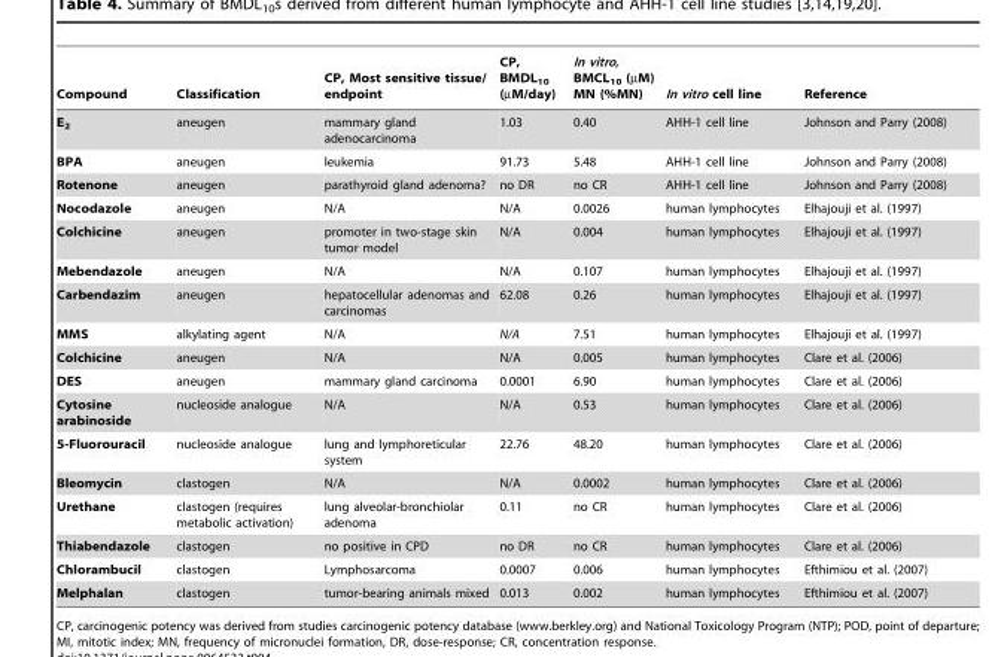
<table><thead><tr><td>Compound</td><td>Classification</td><td>CP, Most sensitive tissue/ endpoint</td><td>CP, BMDL<sub>10</sub> (µM/day)</td><td>In vitro, BMCL<sub>10</sub> (µM) MN (%MN)</td><td>In vitro cell line</td><td>Reference</td></tr></thead><tbody><tr><td>E<sub>2</sub></td><td>aneugen</td><td>mammary gland adenocarcinoma</td><td>1.03</td><td>0.40</td><td>AHH-1 cell line</td><td>Johnson and Parry (2008)</td></tr><tr><td>BPA</td><td>aneugen</td><td>leukemia</td><td>91.73</td><td>5.48</td><td>AHH-1 cell line</td><td>Johnson and Parry (2008)</td></tr><tr><td>Rotenone</td><td>aneugen</td><td>parathyroid gland adenoma?</td><td>no DR</td><td>no CR</td><td>AHH-1 cell line</td><td>Johnson and Parry (2008)</td></tr><tr><td>Nocodazole</td><td>aneugen</td><td>N/A</td><td>N/A</td><td>0.0026</td><td>human lymphocytes</td><td>Elhajouji et al. (1997)</td></tr><tr><td>Colchicine</td><td>aneugen</td><td>promoter in two-stage skin tumor model</td><td>N/A</td><td>0.004</td><td>human lymphocytes</td><td>Elhajouji et al. (1997)</td></tr><tr><td>Mebendazole</td><td>aneugen</td><td>N/A</td><td>N/A</td><td>0.107</td><td>human lymphocytes</td><td>Elhajouji et al. (1997)</td></tr><tr><td>Carbendazim</td><td>aneugen</td><td>hepatocellular adenomas and carcinomas</td><td>62.08</td><td>0.26</td><td>human lymphocytes</td><td>Elhajouji et al. (1997)</td></tr><tr><td>MMS</td><td>alkylating agent</td><td>N/A</td><td>N/A</td><td>7.51</td><td>human lymphocytes</td><td>Elhajouji et al. (1997)</td></tr><tr><td>Colchicine</td><td>aneugen</td><td>N/A</td><td>N/A</td><td>0.005</td><td>human lymphocytes</td><td>Clare et al. (2006)</td></tr><tr><td>DES</td><td>aneugen</td><td>mammary gland carcinoma</td><td>0.0001</td><td>6.90</td><td>human lymphocytes</td><td>Clare et al. (2006)</td></tr><tr><td>Cytosine arabinoside</td><td>nucleoside analogue</td><td>N/A</td><td>N/A</td><td>0.53</td><td>human lymphocytes</td><td>Clare et al. (2006)</td></tr><tr><td>5-Fluorouracil</td><td>nucleoside analogue</td><td>lung and lymphoreticular system</td><td>22.76</td><td>48.20</td><td>human lymphocytes</td><td>Clare et al. (2006)</td></tr><tr><td>Bleomycin</td><td>clastogen</td><td>N/A</td><td>N/A</td><td>0.0002</td><td>human lymphocytes</td><td>Clare et al. (2006)</td></tr><tr><td>Urethane</td><td>clastogen (requires metabolic activation)</td><td>lung alveolar-bronchiolar adenoma</td><td>0.11</td><td>no CR</td><td>human lymphocytes</td><td>Clare et al. (2006)</td></tr><tr><td>Thiabendazole</td><td>clastogen</td><td>no positive in CPD</td><td>no DR</td><td>no CR</td><td>human lymphocytes</td><td>Clare et al. (2006)</td></tr><tr><td>Chlorambucil</td><td>clastogen</td><td>Lymphosarcoma</td><td>0.0007</td><td>0.006</td><td>human lymphocytes</td><td>Efthimiou et al. (2007)</td></tr><tr><td>Melphalan</td><td>clastogen</td><td>tumor-bearing animals mixed</td><td>0.013</td><td>0.002</td><td>human lymphocytes</td><td>Efthimiou et al. (2007)</td></tr></tbody></table>